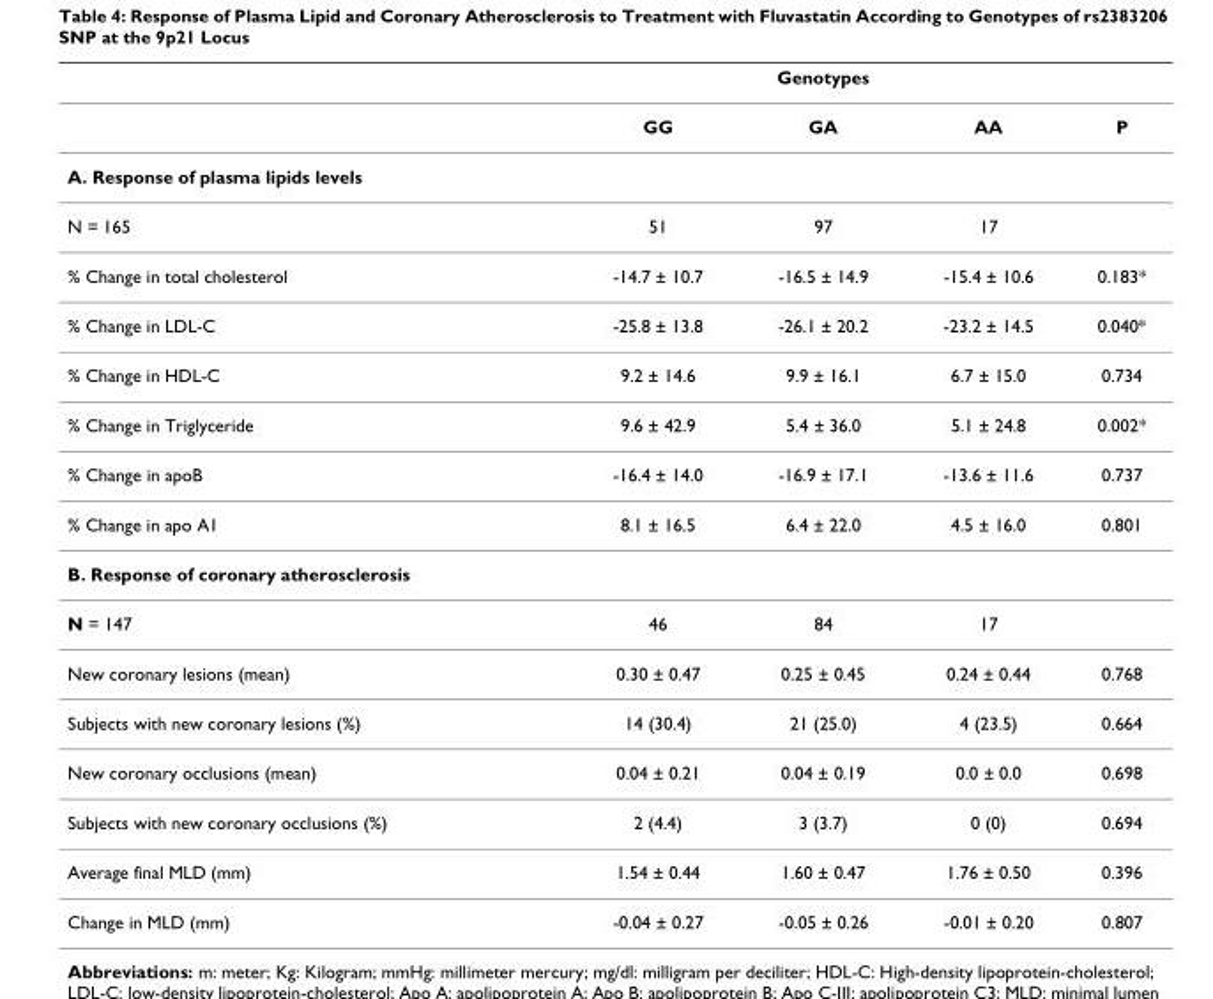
<table><thead><tr><td rowspan="2"></td><td colspan="3">Genotypes</td><td rowspan="2">P</td></tr><tr><td>GG</td><td>GA</td><td>AA</td></tr></thead><tbody><tr><td colspan="5">A. Response of plasma lipids levels</td></tr><tr><td>N = 165</td><td>51</td><td>97</td><td>17</td><td></td></tr><tr><td>% Change in total cholesterol</td><td>-14.7 ± 10.7</td><td>-16.5 ± 14.9</td><td>-15.4 ± 10.6</td><td>0.183*</td></tr><tr><td>% Change in LDL-C</td><td>-25.8 ± 13.8</td><td>-26.1 ± 20.2</td><td>-23.2 ± 14.5</td><td>0.040*</td></tr><tr><td>% Change in HDL-C</td><td>9.2 ± 14.6</td><td>9.9 ± 16.1</td><td>6.7 ± 15.0</td><td>0.734</td></tr><tr><td>% Change in Triglyceride</td><td>9.6 ± 42.9</td><td>5.4 ± 36.0</td><td>5.1 ± 24.8</td><td>0.002*</td></tr><tr><td>% Change in apoB</td><td>-16.4 ± 14.0</td><td>-16.9 ± 17.1</td><td>-13.6 ± 11.6</td><td>0.737</td></tr><tr><td>% Change in apo A1</td><td>8.1 ± 16.5</td><td>6.4 ± 22.0</td><td>4.5 ± 16.0</td><td>0.801</td></tr><tr><td colspan="5">B. Response of coronary atherosclerosis</td></tr><tr><td>N = 147</td><td>46</td><td>84</td><td>17</td><td></td></tr><tr><td>New coronary lesions (mean)</td><td>0.30 ± 0.47</td><td>0.25 ± 0.45</td><td>0.24 ± 0.44</td><td>0.768</td></tr><tr><td>Subjects with new coronary lesions (%)</td><td>14 (30.4)</td><td>21 (25.0)</td><td>4 (23.5)</td><td>0.664</td></tr><tr><td>New coronary occlusions (mean)</td><td>0.04 ± 0.21</td><td>0.04 ± 0.19</td><td>0.0 ± 0.0</td><td>0.698</td></tr><tr><td>Subjects with new coronary occlusions (%)</td><td>2 (4.4)</td><td>3 (3.7)</td><td>0 (0)</td><td>0.694</td></tr><tr><td>Average final MLD (mm)</td><td>1.54 ± 0.44</td><td>1.60 ± 0.47</td><td>1.76 ± 0.50</td><td>0.396</td></tr><tr><td>Change in MLD (mm)</td><td>-0.04 ± 0.27</td><td>-0.05 ± 0.26</td><td>-0.01 ± 0.20</td><td>0.807</td></tr></tbody></table>